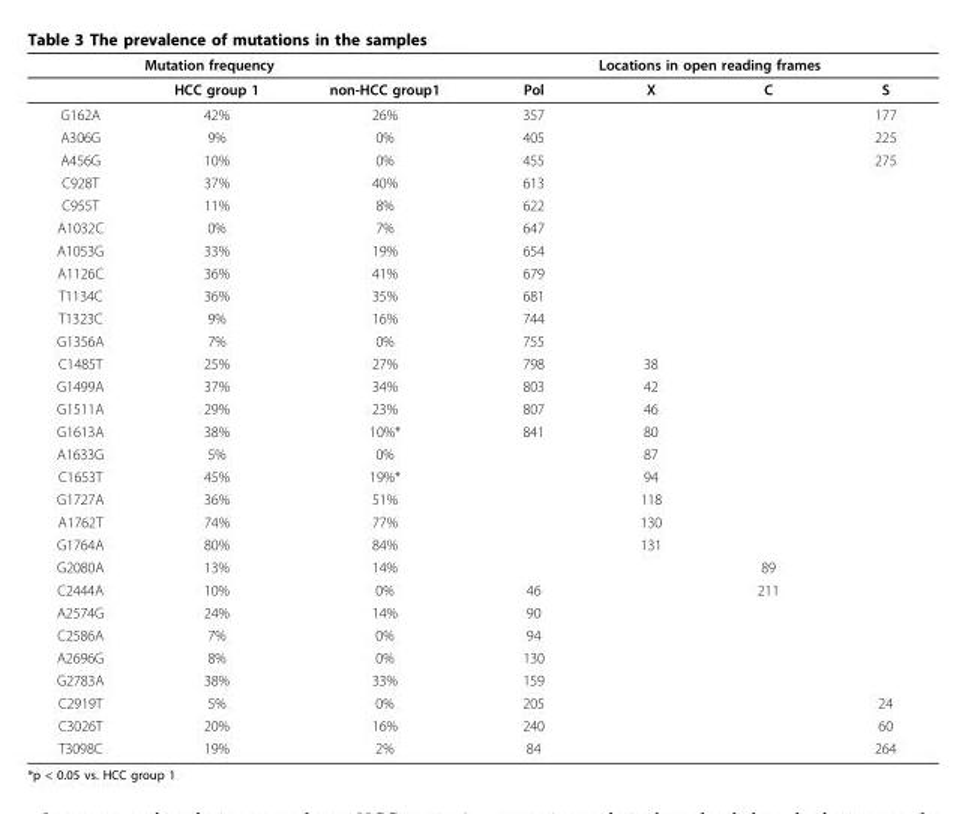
<table><thead><tr><td rowspan="2"></td><td colspan="2">Mutation frequency</td><td colspan="4">Locations in open reading frames</td></tr><tr><td>HCC group 1</td><td>non-HCC group1</td><td>Pol</td><td>X</td><td>C</td><td>S</td></tr></thead><tbody><tr><td>G162A</td><td>42%</td><td>26%</td><td>357</td><td></td><td></td><td>177</td></tr><tr><td>A306G</td><td>9%</td><td>0%</td><td>405</td><td></td><td></td><td>225</td></tr><tr><td>A456G</td><td>10%</td><td>0%</td><td>455</td><td></td><td></td><td>275</td></tr><tr><td>C928T</td><td>37%</td><td>40%</td><td>613</td><td></td><td></td><td></td></tr><tr><td>C955T</td><td>11%</td><td>8%</td><td>622</td><td></td><td></td><td></td></tr><tr><td>A1032C</td><td>0%</td><td>7%</td><td>647</td><td></td><td></td><td></td></tr><tr><td>A1053G</td><td>33%</td><td>19%</td><td>654</td><td></td><td></td><td></td></tr><tr><td>A1126C</td><td>36%</td><td>41%</td><td>679</td><td></td><td></td><td></td></tr><tr><td>T1134C</td><td>36%</td><td>35%</td><td>681</td><td></td><td></td><td></td></tr><tr><td>T1323C</td><td>9%</td><td>16%</td><td>744</td><td></td><td></td><td></td></tr><tr><td>G1356A</td><td>7%</td><td>0%</td><td>755</td><td></td><td></td><td></td></tr><tr><td>C1485T</td><td>25%</td><td>27%</td><td>798</td><td>38</td><td></td><td></td></tr><tr><td>G1499A</td><td>37%</td><td>34%</td><td>803</td><td>42</td><td></td><td></td></tr><tr><td>G1511A</td><td>29%</td><td>23%</td><td>807</td><td>46</td><td></td><td></td></tr><tr><td>G1613A</td><td>38%</td><td>10%*</td><td>841</td><td>80</td><td></td><td></td></tr><tr><td>A1633G</td><td>5%</td><td>0%</td><td></td><td>87</td><td></td><td></td></tr><tr><td>C1653T</td><td>45%</td><td>19%*</td><td></td><td>94</td><td></td><td></td></tr><tr><td>G1727A</td><td>36%</td><td>51%</td><td></td><td>118</td><td></td><td></td></tr><tr><td>A1762T</td><td>74%</td><td>77%</td><td></td><td>130</td><td></td><td></td></tr><tr><td>G1764A</td><td>80%</td><td>84%</td><td></td><td>131</td><td></td><td></td></tr><tr><td>G2080A</td><td>13%</td><td>14%</td><td></td><td></td><td>89</td><td></td></tr><tr><td>C2444A</td><td>10%</td><td>0%</td><td>46</td><td></td><td>211</td><td></td></tr><tr><td>A2574G</td><td>24%</td><td>14%</td><td>90</td><td></td><td></td><td></td></tr><tr><td>C2586A</td><td>7%</td><td>0%</td><td>94</td><td></td><td></td><td></td></tr><tr><td>A2696G</td><td>8%</td><td>0%</td><td>130</td><td></td><td></td><td></td></tr><tr><td>G2783A</td><td>38%</td><td>33%</td><td>159</td><td></td><td></td><td></td></tr><tr><td>C2919T</td><td>5%</td><td>0%</td><td>205</td><td></td><td></td><td>24</td></tr><tr><td>C3026T</td><td>20%</td><td>16%</td><td>240</td><td></td><td></td><td>60</td></tr><tr><td>T3098C</td><td>19%</td><td>2%</td><td>84</td><td></td><td></td><td>264</td></tr></tbody></table>